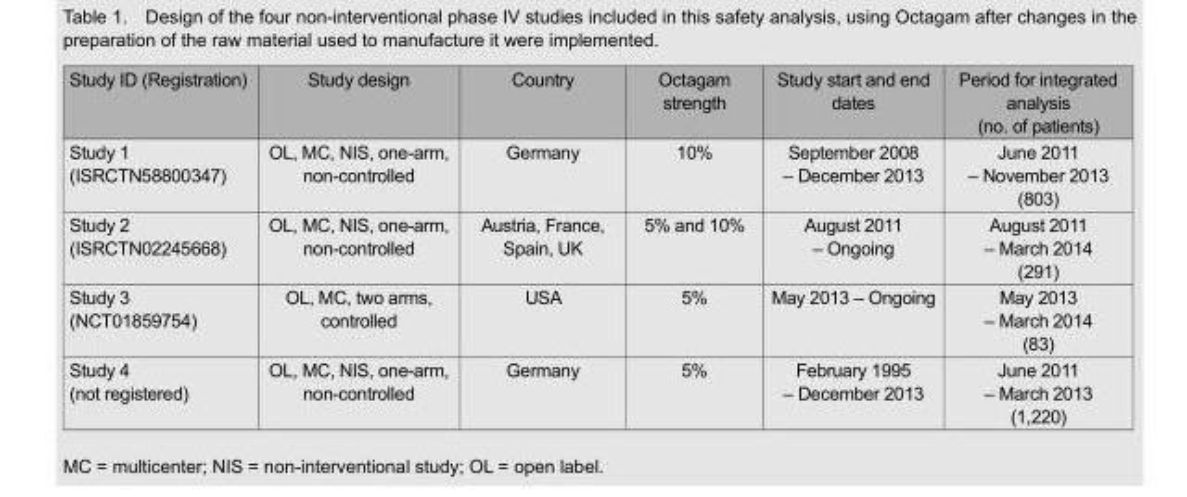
<table><thead><tr><td>Study ID (Registration)</td><td>Study design</td><td>Country</td><td>Octagam strength</td><td>Study start and end dates</td><td>Period for integrated analysis (no. of patients)</td></tr></thead><tbody><tr><td>Study 1 (ISRCTN58800347)</td><td>OL, MC, NIS, one-arm, non-controlled</td><td>Germany</td><td>10%</td><td>September 2008 – December 2013</td><td>June 2011 – November 2013 (803)</td></tr><tr><td>Study 2 (ISRCTN02245668)</td><td>OL, MC, NIS, one-arm, non-controlled</td><td>Austria, France, Spain, UK</td><td>5% and 10%</td><td>August 2011 – Ongoing</td><td>August 2011 – March 2014 (291)</td></tr><tr><td>Study 3 (NCT01859754)</td><td>OL, MC, two arms, controlled</td><td>USA</td><td>5%</td><td>May 2013 – Ongoing</td><td>May 2013 – March 2014 (83)</td></tr><tr><td>Study 4 (not registered)</td><td>OL, MC, NIS, one-arm, non-controlled</td><td>Germany</td><td>5%</td><td>February 1995 – December 2013</td><td>June 2011 – March 2013 (1,220)</td></tr></tbody></table>